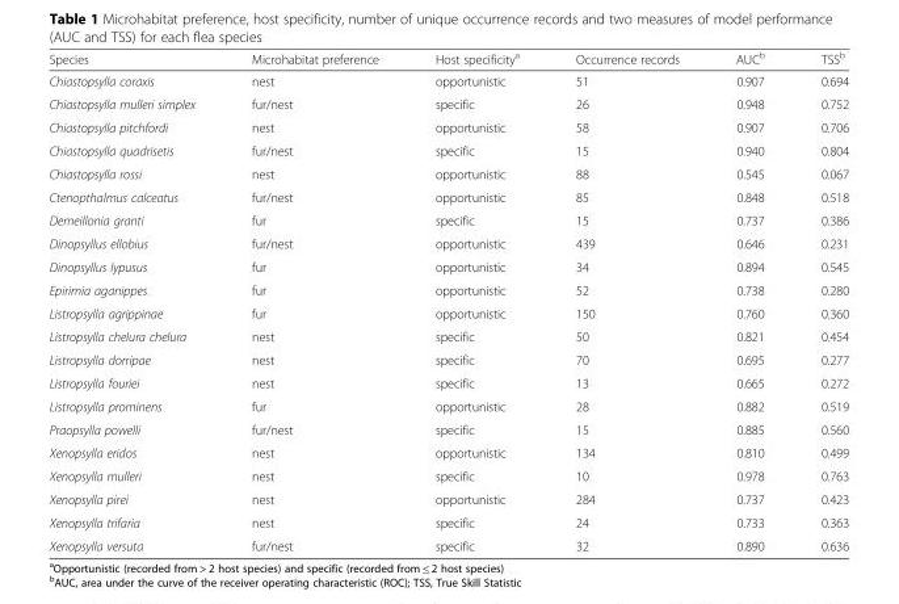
<table><thead><tr><td>Species</td><td>Microhabitat preference</td><td>Host specificity<sup>a</sup></td><td>Occurrence records</td><td>AUC<sup>b</sup></td><td>TSS<sup>b</sup></td></tr></thead><tbody><tr><td>Chiastopsylla coraxis</td><td>nest</td><td>opportunistic</td><td>51</td><td>0.907</td><td>0.694</td></tr><tr><td>Chiastopsylla mulleri simplex</td><td>fur/nest</td><td>specific</td><td>26</td><td>0.948</td><td>0.752</td></tr><tr><td>Chiastopsylla pitchfordi</td><td>nest</td><td>opportunistic</td><td>58</td><td>0.907</td><td>0.706</td></tr><tr><td>Chiastopsylla quadrisetis</td><td>fur/nest</td><td>specific</td><td>15</td><td>0.940</td><td>0.804</td></tr><tr><td>Chiastopsylla rossi</td><td>nest</td><td>opportunistic</td><td>88</td><td>0.545</td><td>0.067</td></tr><tr><td>Ctenopthalmus calceatus</td><td>fur/nest</td><td>opportunistic</td><td>85</td><td>0.848</td><td>0.518</td></tr><tr><td>Demeillonia granti</td><td>fur</td><td>specific</td><td>15</td><td>0.737</td><td>0.386</td></tr><tr><td>Dinopsyllus ellobius</td><td>fur/nest</td><td>opportunistic</td><td>439</td><td>0.646</td><td>0.231</td></tr><tr><td>Dinopsyllus lypusus</td><td>fur</td><td>opportunistic</td><td>34</td><td>0.894</td><td>0.545</td></tr><tr><td>Epirimia aganippes</td><td>fur</td><td>opportunistic</td><td>52</td><td>0.738</td><td>0.280</td></tr><tr><td>Listropsylla agrippinae</td><td>fur</td><td>opportunistic</td><td>150</td><td>0.760</td><td>0.360</td></tr><tr><td>Listropsylla chelura chelura</td><td>nest</td><td>specific</td><td>50</td><td>0.821</td><td>0.454</td></tr><tr><td>Listropsylla dorripae</td><td>nest</td><td>specific</td><td>70</td><td>0.695</td><td>0.277</td></tr><tr><td>Listropsylla fouriei</td><td>nest</td><td>specific</td><td>13</td><td>0.665</td><td>0.272</td></tr><tr><td>Listropsylla prominens</td><td>fur</td><td>opportunistic</td><td>28</td><td>0.882</td><td>0.519</td></tr><tr><td>Praopsylla powelli</td><td>fur/nest</td><td>specific</td><td>15</td><td>0.885</td><td>0.560</td></tr><tr><td>Xenopsylla eridos</td><td>nest</td><td>opportunistic</td><td>134</td><td>0.810</td><td>0.499</td></tr><tr><td>Xenopsylla mulleri</td><td>nest</td><td>specific</td><td>10</td><td>0.978</td><td>0.763</td></tr><tr><td>Xenopsylla pirei</td><td>nest</td><td>opportunistic</td><td>284</td><td>0.737</td><td>0.423</td></tr><tr><td>Xenopsylla trifaria</td><td>nest</td><td>specific</td><td>24</td><td>0.733</td><td>0.363</td></tr><tr><td>Xenopsylla versuta</td><td>fur/nest</td><td>specific</td><td>32</td><td>0.890</td><td>0.636</td></tr></tbody></table>